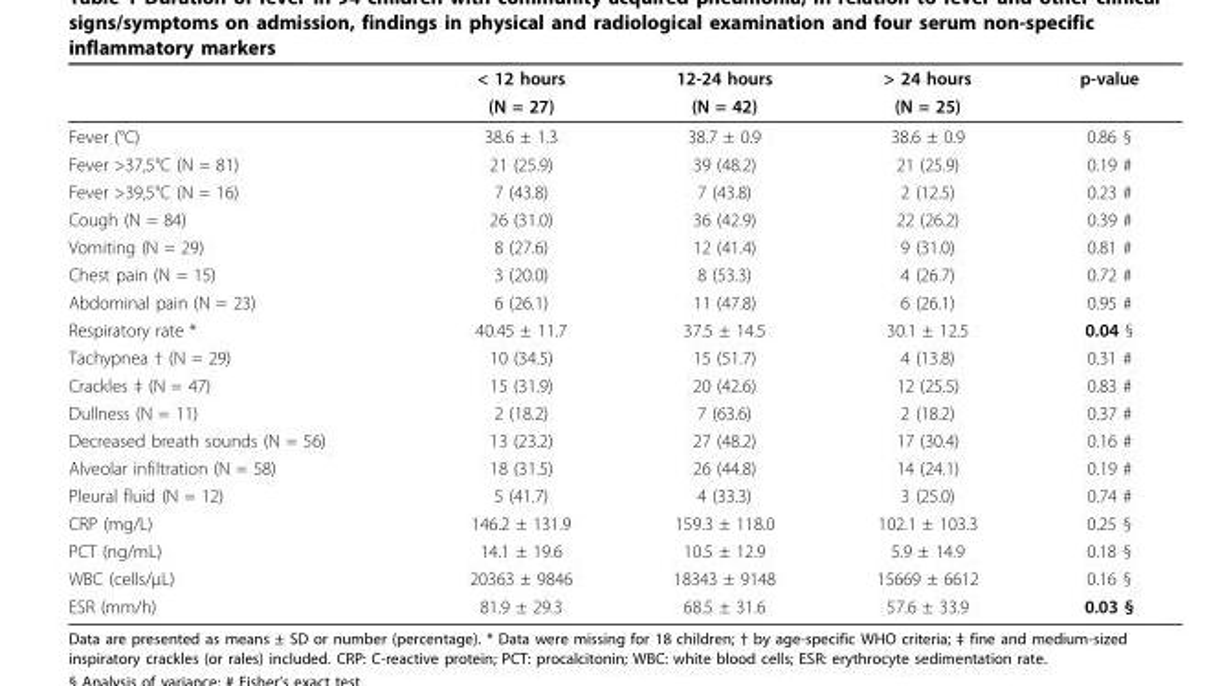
<table><thead><tr><td rowspan="2"></td><td rowspan="2">&lt; 12 hours (N = 27)</td><td rowspan="2">12-24 hours (N = 42)</td><td rowspan="2">&gt; 24 hours (N = 25)</td><td rowspan="2">p-value</td></tr><tr></tr></thead><tbody><tr><td>Fever (°C)</td><td>38.6 ± 1.3</td><td>38.7 ± 0.9</td><td>38.6 ± 0.9</td><td>0.86 §</td></tr><tr><td>Fever &gt;37,5°C (N = 81)</td><td>21 (25.9)</td><td>39 (48.2)</td><td>21 (25.9)</td><td>0.19 #</td></tr><tr><td>Fever &gt;39,5°C (N = 16)</td><td>7 (43.8)</td><td>7 (43.8)</td><td>2 (12.5)</td><td>0.23 #</td></tr><tr><td>Cough (N = 84)</td><td>26 (31.0)</td><td>36 (42.9)</td><td>22 (26.2)</td><td>0.39 #</td></tr><tr><td>Vomiting (N = 29)</td><td>8 (27.6)</td><td>12 (41.4)</td><td>9 (31.0)</td><td>0.81 #</td></tr><tr><td>Chest pain (N = 15)</td><td>3 (20.0)</td><td>8 (53.3)</td><td>4 (26.7)</td><td>0.72 #</td></tr><tr><td>Abdominal pain (N = 23)</td><td>6 (26.1)</td><td>11 (47.8)</td><td>6 (26.1)</td><td>0.95 #</td></tr><tr><td>Respiratory rate *</td><td>40.45 ± 11.7</td><td>37.5 ± 14.5</td><td>30.1 ± 12.5</td><td>0.04 §</td></tr><tr><td>Tachypnea † (N = 29)</td><td>10 (34.5)</td><td>15 (51.7)</td><td>4 (13.8)</td><td>0.31 #</td></tr><tr><td>Crackles ‡ (N = 47)</td><td>15 (31.9)</td><td>20 (42.6)</td><td>12 (25.5)</td><td>0.83 #</td></tr><tr><td>Dullness (N = 11)</td><td>2 (18.2)</td><td>7 (63.6)</td><td>2 (18.2)</td><td>0.37 #</td></tr><tr><td>Decreased breath sounds (N = 56)</td><td>13 (23.2)</td><td>27 (48.2)</td><td>17 (30.4)</td><td>0.16 #</td></tr><tr><td>Alveolar infiltration (N = 58)</td><td>18 (31.5)</td><td>26 (44.8)</td><td>14 (24.1)</td><td>0.19 #</td></tr><tr><td>Pleural fluid (N = 12)</td><td>5 (41.7)</td><td>4 (33.3)</td><td>3 (25.0)</td><td>0.74 #</td></tr><tr><td>CRP (mg/L)</td><td>146.2 ± 131.9</td><td>159.3 ± 118.0</td><td>102.1 ± 103.3</td><td>0.25 §</td></tr><tr><td>PCT (ng/mL)</td><td>14.1 ± 19.6</td><td>10.5 ± 12.9</td><td>5.9 ± 14.9</td><td>0.18 §</td></tr><tr><td>WBC (cells/μL)</td><td>20363 ± 9846</td><td>18343 ± 9148</td><td>15669 ± 6612</td><td>0.16 §</td></tr><tr><td>ESR (mm/h)</td><td>81.9 ± 29.3</td><td>68.5 ± 31.6</td><td>57.6 ± 33.9</td><td>0.03 §</td></tr></tbody></table>